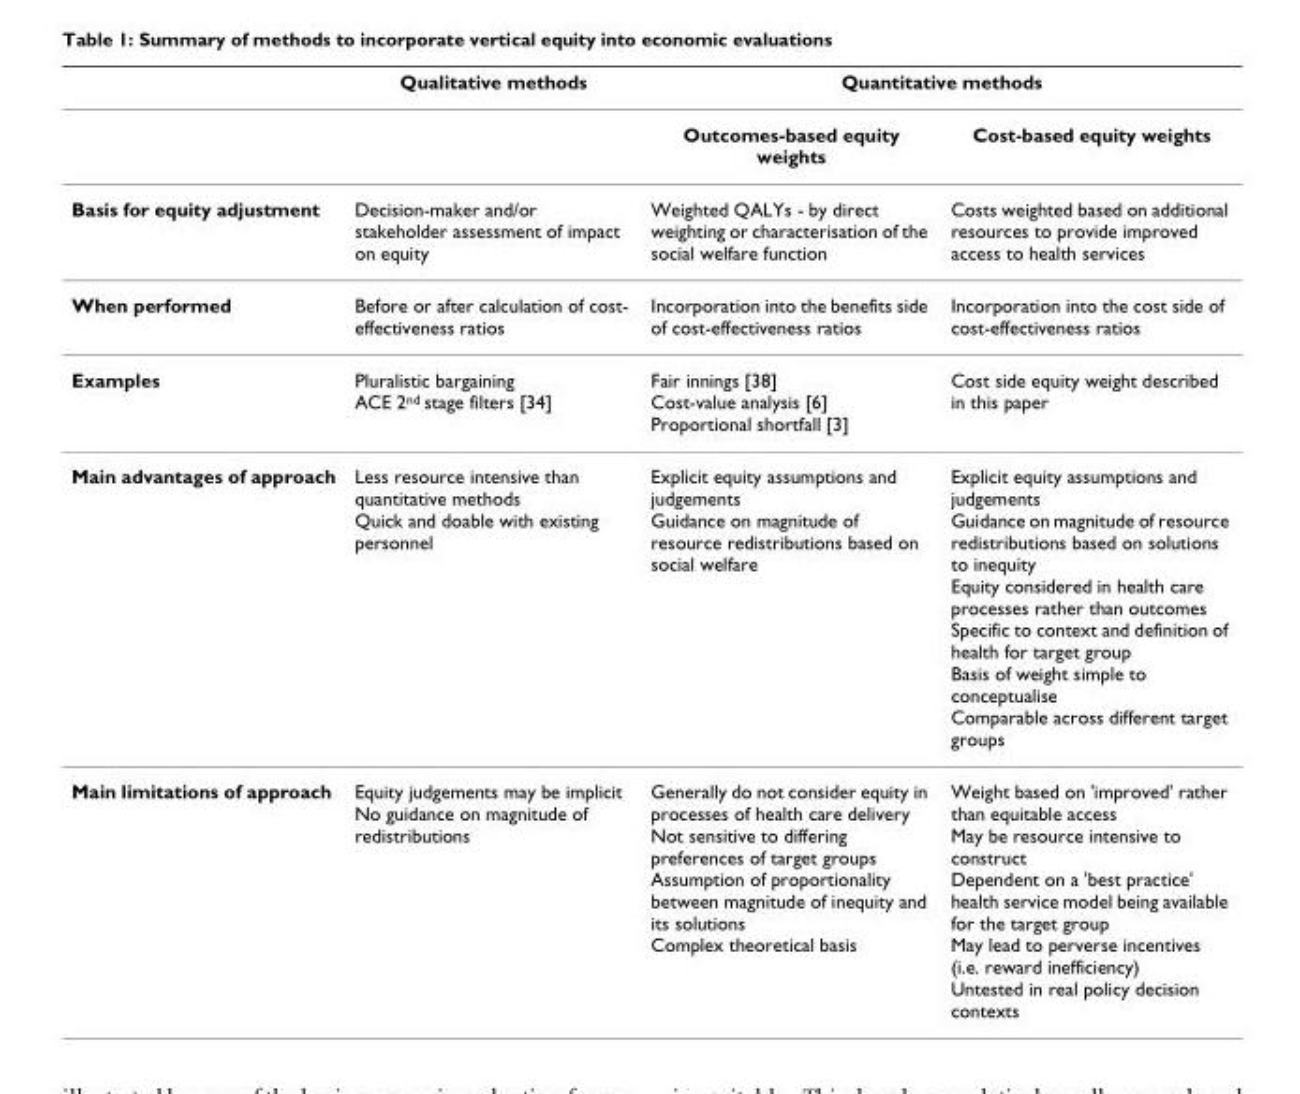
<table><thead><tr><td rowspan="2"></td><td rowspan="2">Qualitative methods</td><td colspan="2">Quantitative methods</td></tr><tr><td>Outcomes-based equity weights</td><td>Cost-based equity weights</td></tr></thead><tbody><tr><td>Basis for equity adjustment</td><td>Decision-maker and/or stakeholder assessment of impact on equity</td><td>Weighted QALYs - by direct weighting or characterisation of the social welfare function</td><td>Costs weighted based on additional resources to provide improved access to health services</td></tr><tr><td>When performed</td><td>Before or after calculation of cost- effectiveness ratios</td><td>Incorporation into the benefits side of cost-effectiveness ratios</td><td>Incorporation into the cost side of cost-effectiveness ratios</td></tr><tr><td>Examples</td><td>Pluralistic bargaining ACE 2<sup>nd</sup> stage filters [34]</td><td>Fair innings [38] Cost-value analysis [6] Proportional shortfall [3]</td><td>Cost side equity weight described in this paper</td></tr><tr><td>Main advantages of approach</td><td>Less resource intensive than quantitative methods Quick and doable with existing personnel</td><td>Explicit equity assumptions and judgements Guidance on magnitude of resource redistributions based on social welfare</td><td>Explicit equity assumptions and judgements Guidance on magnitude of resource redistributions based on solutions to inequity Equity considered in health care processes rather than outcomes Specific to context and definition of health for target group Basis of weight simple to conceptualise Comparable across different target groups</td></tr><tr><td>Main limitations of approach</td><td>Equity judgements may be implicit No guidance on magnitude of redistributions</td><td>Generally do not consider equity in processes of health care delivery Not sensitive to differing preferences of target groups Assumption of proportionality between magnitude of inequity and its solutions Complex theoretical basis</td><td>Weight based on &#x27;improved&#x27; rather than equitable access May be resource intensive to construct Dependent on a &#x27;best practice&#x27; health service model being available for the target group May lead to perverse incentives (i.e. reward inefficiency) Untested in real policy decision contexts</td></tr></tbody></table>